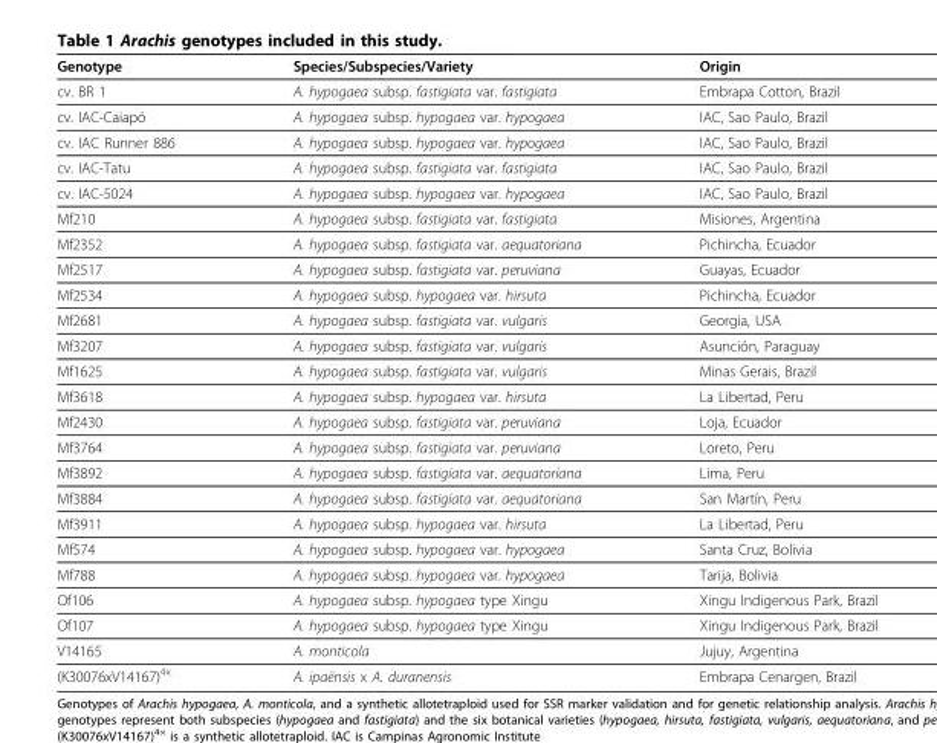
<table><thead><tr><td>Genotype</td><td>Species/Subspecies/Variety</td><td>Origin</td></tr></thead><tbody><tr><td>cv. BR 1</td><td>A. hypogaea subsp. fastigiata var. fastigiata</td><td>Embrapa Cotton, Brazil</td></tr><tr><td>cv. IAC-Caiapó</td><td>A. hypogaea subsp. hypogaea var. hypogaea</td><td>IAC, Sao Paulo, Brazil</td></tr><tr><td>cv. IAC Runner 886</td><td>A. hypogaea subsp. hypogaea var. hypogaea</td><td>IAC, Sao Paulo, Brazil</td></tr><tr><td>cv. IAC-Tatu</td><td>A. hypogaea subsp. fastigiata var. fastigiata</td><td>IAC, Sao Paulo, Brazil</td></tr><tr><td>cv. IAC-5024</td><td>A. hypogaea subsp. hypogaea var. hypogaea</td><td>IAC, Sao Paulo, Brazil</td></tr><tr><td>Mf210</td><td>A. hypogaea subsp. fastigiata var. fastigiata</td><td>Misiones, Argentina</td></tr><tr><td>Mf2352</td><td>A. hypogaea subsp. fastigiata var. aequatoriana</td><td>Pichincha, Ecuador</td></tr><tr><td>Mf2517</td><td>A. hypogaea subsp. fastigiata var. peruviana</td><td>Guayas, Ecuador</td></tr><tr><td>Mf2534</td><td>A. hypogaea subsp. hypogaea var. hirsuta</td><td>Pichincha, Ecuador</td></tr><tr><td>Mf2681</td><td>A. hypogaea subsp. fastigiata var. vulgaris</td><td>Georgia, USA</td></tr><tr><td>Mf3207</td><td>A. hypogaea subsp. fastigiata var. vulgaris</td><td>Asunción, Paraguay</td></tr><tr><td>Mf1625</td><td>A. hypogaea subsp. fastigiata var. vulgaris</td><td>Minas Gerais, Brazil</td></tr><tr><td>Mf3618</td><td>A. hypogaea subsp. hypogaea var. hirsuta</td><td>La Libertad, Peru</td></tr><tr><td>Mf2430</td><td>A. hypogaea subsp. fastigiata var. peruviana</td><td>Loja, Ecuador</td></tr><tr><td>Mf3764</td><td>A. hypogaea subsp. fastigiata var. peruviana</td><td>Loreto, Peru</td></tr><tr><td>Mf3892</td><td>A. hypogaea subsp. fastigiata var. aequatoriana</td><td>Lima, Peru</td></tr><tr><td>Mf3884</td><td>A. hypogaea subsp. fastigiata var. aequatoriana</td><td>San Martín, Peru</td></tr><tr><td>Mf3911</td><td>A. hypogaea subsp. hypogaea var. hirsuta</td><td>La Libertad, Peru</td></tr><tr><td>Mf574</td><td>A. hypogaea subsp. hypogaea var. hypogaea</td><td>Santa Cruz, Bolivia</td></tr><tr><td>Mf788</td><td>A. hypogaea subsp. hypogaea var. hypogaea</td><td>Tarija, Bolivia</td></tr><tr><td>Of106</td><td>A. hypogaea subsp. hypogaea type Xingu</td><td>Xingu Indigenous Park, Brazil</td></tr><tr><td>Of107</td><td>A. hypogaea subsp. hypogaea type Xingu</td><td>Xingu Indigenous Park, Brazil</td></tr><tr><td>V14165</td><td>A. monticola</td><td>Jujuy, Argentina</td></tr><tr><td>(K30076xV14167)<sup>4x</sup></td><td>A. ipaënsis x A. duranensis</td><td>Embrapa Cenargen, Brazil</td></tr></tbody></table>